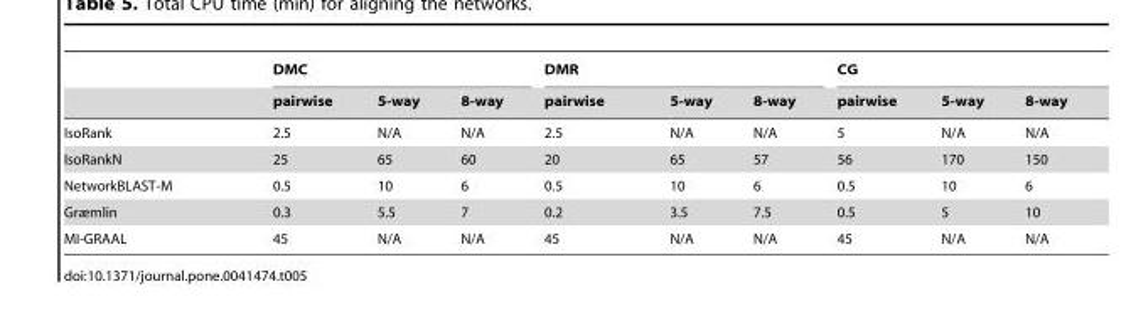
<table><thead><tr><td rowspan="2"></td><td colspan="3">DMC</td><td colspan="3">DMR</td><td colspan="3">CG</td></tr><tr><td>pairwise</td><td>5-way</td><td>8-way</td><td>pairwise</td><td>5-way</td><td>8-way</td><td>pairwise</td><td>5-way</td><td>8-way</td></tr></thead><tbody><tr><td>IsoRank</td><td>2.5</td><td>N/A</td><td>N/A</td><td>2.5</td><td>N/A</td><td>N/A</td><td>5</td><td>N/A</td><td>N/A</td></tr><tr><td>IsoRankN</td><td>25</td><td>65</td><td>60</td><td>20</td><td>65</td><td>57</td><td>56</td><td>170</td><td>150</td></tr><tr><td>NetworkBLAST-M</td><td>0.5</td><td>10</td><td>6</td><td>0.5</td><td>10</td><td>6</td><td>0.5</td><td>10</td><td>6</td></tr><tr><td>Græmlin</td><td>0.3</td><td>5.5</td><td>7</td><td>0.2</td><td>3.5</td><td>7.5</td><td>0.5</td><td>5</td><td>10</td></tr><tr><td>MI-GRAAL</td><td>45</td><td>N/A</td><td>N/A</td><td>45</td><td>N/A</td><td>N/A</td><td>45</td><td>N/A</td><td>N/A</td></tr></tbody></table>